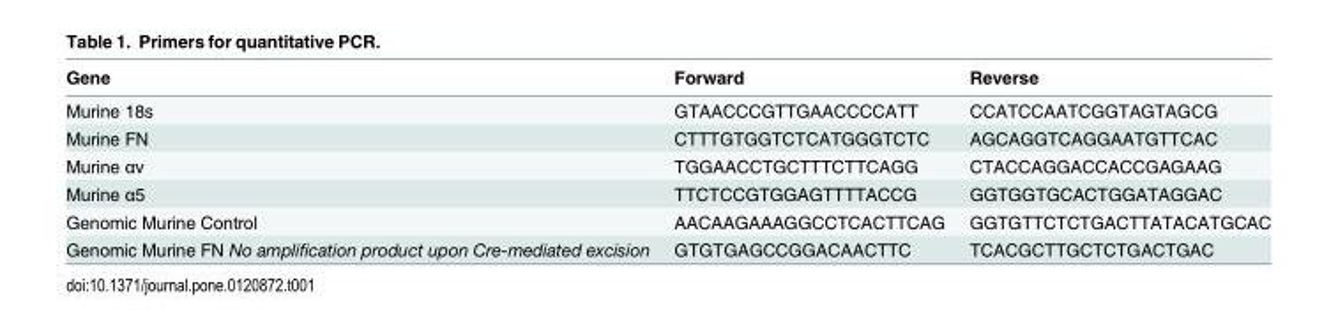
<table><thead><tr><td>Gene</td><td>Forward</td><td>Reverse</td></tr></thead><tbody><tr><td>Murine 18s</td><td>GTAACCCGTTGAACCCCATT</td><td>CCATCCAATCGGTAGTAGCG</td></tr><tr><td>Murine FN</td><td>CTTTGTGGTCTCATGGGTCTC</td><td>AGCAGGTCAGGAATGTTCAC</td></tr><tr><td>Murine αv</td><td>TGGAACCTGCTTTCTTCAGG</td><td>CTACCAGGACCACCGAGAAG</td></tr><tr><td>Murine α5</td><td>TTCTCCGTGGAGTTTTACCG</td><td>GGTGGTGCACTGGATAGGAC</td></tr><tr><td>Genomic Murine Control</td><td>AACAAGAAAGGCCTCACTTCAG</td><td>GGTGTTCTCTGACTTATACATGCAC</td></tr><tr><td>Genomic Murine FN No amplification product upon Cre-mediated excision</td><td>GTGTGAGCCGGACAACTTC</td><td>TCACGCTTGCTCTGACTGAC</td></tr></tbody></table>